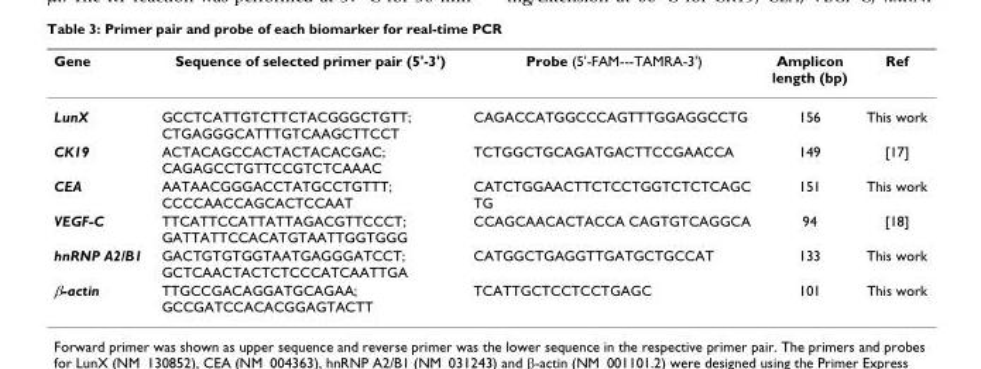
<table><thead><tr><td>Gene</td><td>Sequence of selected primer pair (5&#x27;-3&#x27;)</td><td>Probe (5&#x27;-FAM---TAMRA-3&#x27;)</td><td>Amplicon length (bp)</td><td>Ref</td></tr></thead><tbody><tr><td>LunX</td><td>GCCTCATTGTCTTCTACGGGCTGTT; CTGAGGGCATTTGTCAAGCTTCCT</td><td>CAGACCATGGCCCAGTTTGGAGGCCTG</td><td>156</td><td>This work</td></tr><tr><td>CK19</td><td>ACTACAGCCACTACTACACGAC; CAGAGCCTGTTCCGTCTCAAAC</td><td>TCTGGCTGCAGATGACTTCCGAACCA</td><td>149</td><td>[17]</td></tr><tr><td>CEA</td><td>AATAACGGGACCTATGCCTGTTT; CCCCAACCAGCACTCCAAT</td><td>CATCTGGAACTTCTCCTGGTCTCTCAGC TG</td><td>151</td><td>This work</td></tr><tr><td>VEGF-C</td><td>TTCATTCCATTATTAGACGTTCCCT; GATTATTCCACATGTAATTGGTGGG</td><td>CCAGCAACACTACCA CAGTGTCAGGCA</td><td>94</td><td>[18]</td></tr><tr><td>hnRNP A2/B1</td><td>GACTGTGTGGTAATGAGGGATCCT; GCTCAACTACTCTCCCATCAATTGA</td><td>CATGGCTGAGGTTGATGCTGCCAT</td><td>133</td><td>This work</td></tr><tr><td>β-actin</td><td>TTGCCGACAGGATGCAGAA; GCCGATCCACACGGAGTACTT</td><td>TCATTGCTCCTCCTGAGC</td><td>101</td><td>This work</td></tr></tbody></table>